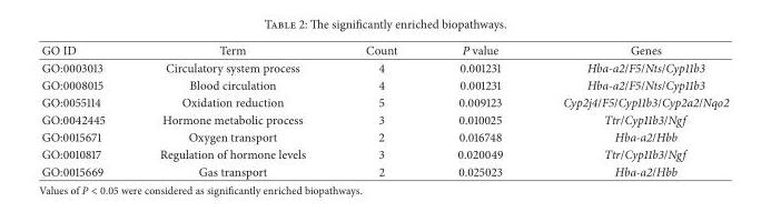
<table><thead><tr><td>GO ID</td><td>Term</td><td>Count</td><td>P value</td><td>Genes</td></tr></thead><tbody><tr><td>GO:0003013</td><td>Circulatory system process</td><td>4</td><td>0.001231</td><td>Hba-a2/F5/Nts/Cyp11b3</td></tr><tr><td>GO:0008015</td><td>Blood circulation</td><td>4</td><td>0.001231</td><td>Hba-a2/F5/Nts/Cyp11b3</td></tr><tr><td>GO:0055114</td><td>Oxidation reduction</td><td>5</td><td>0.009123</td><td>Cyp2j4/F5/Cyp11b3/Cyp2a2/Nqo2</td></tr><tr><td>GO:0042445</td><td>Hormone metabolic process</td><td>3</td><td>0.010025</td><td>Ttr/Cyp11b3/Ngf</td></tr><tr><td>GO:0015671</td><td>Oxygen transport</td><td>2</td><td>0.016748</td><td>Hba-a2/Hbb</td></tr><tr><td>GO:0010817</td><td>Regulation of hormone levels</td><td>3</td><td>0.020049</td><td>Ttr/Cyp11b3/Ngf</td></tr><tr><td>GO:0015669</td><td>Gas transport</td><td>2</td><td>0.025023</td><td>Hba-a2/Hbb</td></tr></tbody></table>